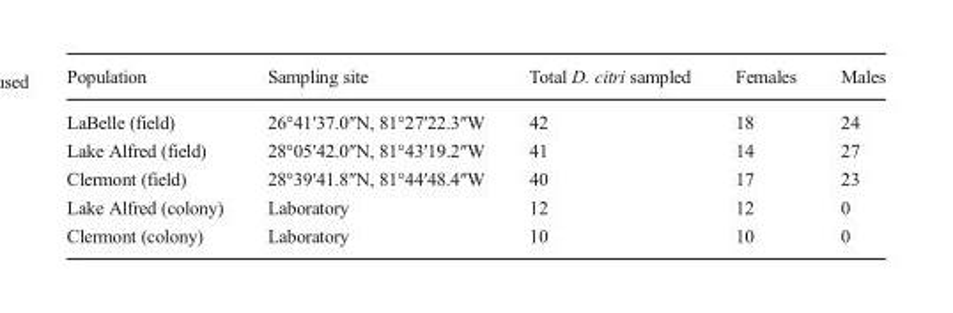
<table><thead><tr><td>Population</td><td>Sampling site</td><td>Total D. citri sampled</td><td>Females</td><td>Males</td></tr></thead><tbody><tr><td>LaBelle (field)</td><td>26°41′37.0″N, 81°27′22.3″W</td><td>42</td><td>18</td><td>24</td></tr><tr><td>Lake Alfred (field)</td><td>28°05′42.0″N, 81°43′19.2″W</td><td>41</td><td>14</td><td>27</td></tr><tr><td>Clermont (field)</td><td>28°39′41.8″N, 81°44′48.4″W</td><td>40</td><td>17</td><td>23</td></tr><tr><td>Lake Alfred (colony)</td><td>Laboratory</td><td>12</td><td>12</td><td>0</td></tr><tr><td>Clermont (colony)</td><td>Laboratory</td><td>10</td><td>10</td><td>0</td></tr></tbody></table>